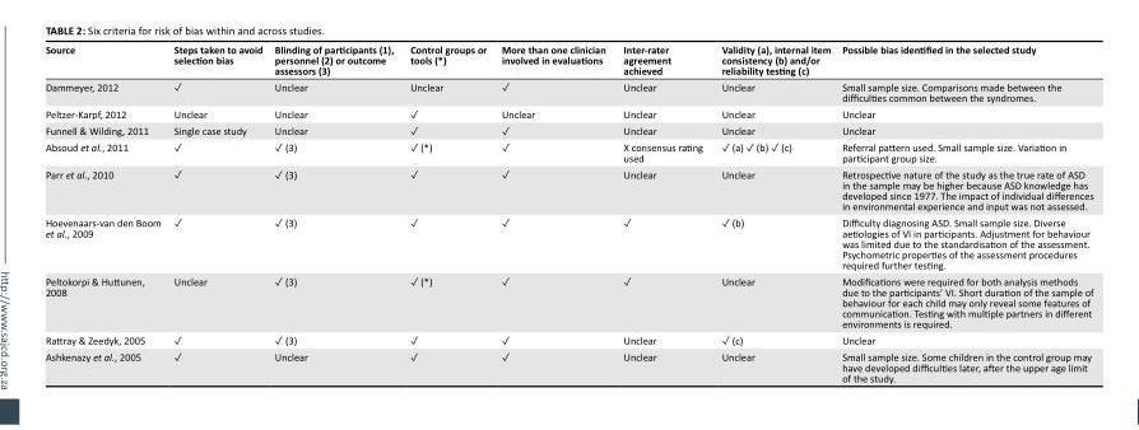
<table><thead><tr><td>Source</td><td>Steps taken to avoid selection bias</td><td>Blinding of participants (1), personnel (2) or outcome assessors (3)</td><td>Control groups or tools (*)</td><td>More than one clinician involved in evaluations</td><td>Inter-rater agreement achieved</td><td>Validity (a), internal item consistency (b) and/or reliability testing (c)</td><td>Possible bias identified in the selected study</td></tr></thead><tbody><tr><td>Dammeyer, 2012</td><td>✓</td><td>Unclear</td><td>Unclear</td><td>✓</td><td>Unclear</td><td>Unclear</td><td>Small sample size. Comparisons made between the difficulties common between the syndromes.</td></tr><tr><td>Peltzer-Karpf, 2012</td><td>Unclear</td><td>Unclear</td><td>✓</td><td>Unclear</td><td>Unclear</td><td>Unclear</td><td>Unclear</td></tr><tr><td>Funnell &amp; Wilding, 2011</td><td>Single case study</td><td>Unclear</td><td>✓</td><td>✓</td><td>Unclear</td><td>Unclear</td><td>Unclear</td></tr><tr><td>Absoud et al., 2011</td><td>✓</td><td>✓ (3)</td><td>✓ (*)</td><td>✓</td><td>X consensus rating used</td><td>✓ (a) ✓ (b) ✓ (c)</td><td>Referral pattern used. Small sample size. Variation in participant group size.</td></tr><tr><td>Parr et al., 2010</td><td>✓</td><td>✓ (3)</td><td>✓</td><td>✓</td><td>Unclear</td><td>Unclear</td><td>Retrospective nature of the study as the true rate of ASD in the sample may be higher because ASD knowledge has developed since 1977. The impact of individual differences in environmental experience and input was not assessed.</td></tr><tr><td>Hoevenaars-van den Boom et al., 2009</td><td>✓</td><td>✓ (3)</td><td>✓</td><td>✓</td><td>✓</td><td>✓ (b)</td><td>Difficulty diagnosing ASD. Small sample size. Diverse aetiologies of VI in participants. Adjustment for behaviour was limited due to the standardisation of the assessment. Psychometric properties of the assessment procedures required further testing.</td></tr><tr><td>Peltokorpi &amp; Huttunen, 2008</td><td>Unclear</td><td>✓ (3)</td><td>✓ (*)</td><td>✓</td><td>✓</td><td>Unclear</td><td>Modifications were required for both analysis methods due to the participants’ VI. Short duration of the sample of behaviour for each child may only reveal some features of communication. Testing with multiple partners in different environments is required.</td></tr><tr><td>Rattray &amp; Zeedyk, 2005</td><td>✓</td><td>✓ (3)</td><td>✓</td><td>✓</td><td>Unclear</td><td>✓ (c)</td><td>Unclear</td></tr><tr><td>Ashkenazy et al., 2005</td><td>✓</td><td>Unclear</td><td>✓</td><td>✓</td><td>Unclear</td><td>Unclear</td><td>Small sample size. Some children in the control group may have developed difficulties later, after the upper age limit of the study.</td></tr></tbody></table>